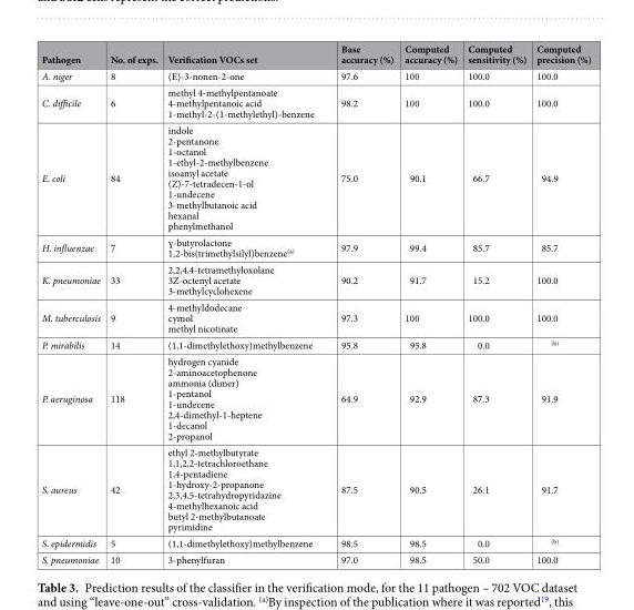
<table><thead><tr><td>Pathogen</td><td>No. of exps.</td><td>Verification VOCs set</td><td>Base accuracy (%)</td><td>Computed accuracy (%)</td><td>Computed sensitivity (%)</td><td>Computed precision (%)</td></tr></thead><tbody><tr><td>A. niger</td><td>8</td><td>(E)-3-nonen-2-one</td><td>97.6</td><td>100</td><td>100.0</td><td>100.0</td></tr><tr><td>C. difficile</td><td>6</td><td>methyl 4-methylpentanoate 4-methylpentanoic acid 1-methyl-2-(1-methylethyl)-benzene</td><td>98.2</td><td>100</td><td>100.0</td><td>100.0</td></tr><tr><td>E. coli</td><td>84</td><td>indole 2-pentanone 1-octanol 1-ethyl-2-methylbenzene isoamyl acetate (Z)-7-tetradecen-1-ol 1-undecene 3-methylbutanoic acid hexanal phenylmethanol</td><td>75.0</td><td>90.1</td><td>66.7</td><td>94.9</td></tr><tr><td>H. influenzae</td><td>7</td><td>ɣ-butyrolactone 1,2-bis(trimethylsilyl)benzene<sup>(a)</sup></td><td>97.9</td><td>99.4</td><td>85.7</td><td>85.7</td></tr><tr><td>K. pneumoniae</td><td>33</td><td>2,2,4,4-tetramethyloxolane 3Z-octenyl acetate 3-methylcyclohexene</td><td>90.2</td><td>91.7</td><td>15.2</td><td>100.0</td></tr><tr><td>M. tuberculosis</td><td>9</td><td>4-methyldodecane cymol methyl nicotinate</td><td>97.3</td><td>100</td><td>100.0</td><td>100.0</td></tr><tr><td>P. mirabilis</td><td>14</td><td>(1,1-dimethylethoxy)methylbenzene</td><td>95.8</td><td>95.8</td><td>0.0</td><td><sup>(b)</sup></td></tr><tr><td>P. aeruginosa</td><td>118</td><td>hydrogen cyanide 2-aminoacetophenone ammonia (dimer) 1-pentanol 1-undecene 2,4-dimethyl-1-heptene 1-decanol 2-propanol</td><td>64.9</td><td>92.9</td><td>87.3</td><td>91.9</td></tr><tr><td>S. aureus</td><td>42</td><td>ethyl 2-methylbutyrate 1,1,2,2-tetrachloroethane 1,4-pentadiene 1-hydroxy-2-propanone 2,3,4,5-tetrahydropyridazine 4-methylhexanoic acid butyl 2-methylbutanoate pyrimidine</td><td>87.5</td><td>90.5</td><td>26.1</td><td>91.7</td></tr><tr><td>S. epidermidis</td><td>5</td><td>(1,1-dimethylethoxy)methylbenzene</td><td>98.5</td><td>98.5</td><td>0.0</td><td><sup>(b)</sup></td></tr><tr><td>S. pneumoniae</td><td>10</td><td>3-phenylfuran</td><td>97.0</td><td>98.5</td><td>50.0</td><td>100.0</td></tr></tbody></table>